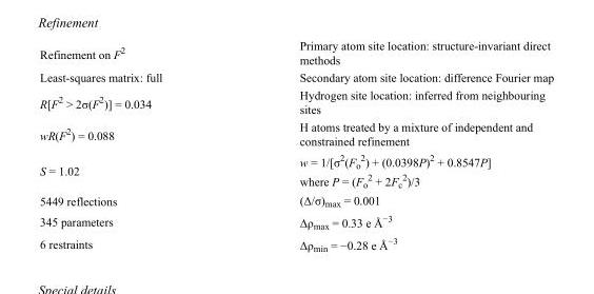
<table><tbody><tr><td>Refinement on F<sup>2</sup></td><td>Primary atom site location: structure-invariant direct methods</td></tr><tr><td>Least-squares matrix: full</td><td>Secondary atom site location: difference Fourier map</td></tr><tr><td>R[F<sup>2</sup> &gt; 2σ(F<sup>2</sup>)] = 0.034</td><td>Hydrogen site location: inferred from neighbouring sites</td></tr><tr><td>wR(F<sup>2</sup>) = 0.088</td><td>H atoms treated by a mixture of independent and constrained refinement</td></tr><tr><td>S = 1.02</td><td>w = 1/[σ<sup>2</sup>(F<sub>o</sub> <sup>2</sup>) + (0.0398P)<sup>2</sup> + 0.8547P] where P = (F<sub>o</sub> <sup>2</sup> + 2F<sub>c</sub> <sup>2</sup>)/3</td></tr><tr><td>5449 reflections</td><td>(Δ/σ)<sub>max</sub> = 0.001</td></tr><tr><td>345 parameters</td><td>Δρ<sub>max</sub> = 0.33 e Å<sup>−3</sup></td></tr><tr><td>6 restraints</td><td>Δρ<sub>min</sub> = −0.28 e Å<sup>−3</sup></td></tr></tbody></table>